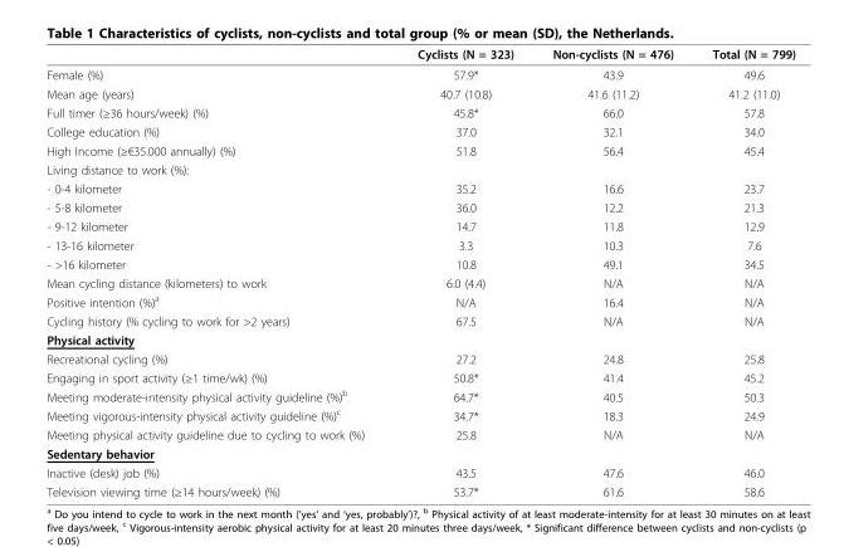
<table><thead><tr><td></td><td>Cyclists (N = 323)</td><td>Non-cyclists (N = 476)</td><td>Total (N = 799)</td></tr></thead><tbody><tr><td>Female (%)</td><td>57.9*</td><td>43.9</td><td>49.6</td></tr><tr><td>Mean age (years)</td><td>40.7 (10.8)</td><td>41.6 (11.2)</td><td>41.2 (11.0)</td></tr><tr><td>Full timer (≥36 hours/week) (%)</td><td>45.8*</td><td>66.0</td><td>57.8</td></tr><tr><td>College education (%)</td><td>37.0</td><td>32.1</td><td>34.0</td></tr><tr><td>High Income (≥€35.000 annually) (%)</td><td>51.8</td><td>56.4</td><td>45.4</td></tr><tr><td colspan="4">Living distance to work (%):</td></tr><tr><td>- 0-4 kilometer</td><td>35.2</td><td>16.6</td><td>23.7</td></tr><tr><td>- 5-8 kilometer</td><td>36.0</td><td>12.2</td><td>21.3</td></tr><tr><td>- 9-12 kilometer</td><td>14.7</td><td>11.8</td><td>12.9</td></tr><tr><td>- 13-16 kilometer</td><td>3.3</td><td>10.3</td><td>7.6</td></tr><tr><td>- &gt;16 kilometer</td><td>10.8</td><td>49.1</td><td>34.5</td></tr><tr><td>Mean cycling distance (kilometers) to work</td><td>6.0 (4.4)</td><td>N/A</td><td>N/A</td></tr><tr><td>Positive intention (%)<sup>a</sup></td><td>N/A</td><td>16.4</td><td>N/A</td></tr><tr><td>Cycling history (% cycling to work for &gt;2 years)</td><td>67.5</td><td>N/A</td><td>N/A</td></tr><tr><td colspan="4">Physical activity</td></tr><tr><td>Recreational cycling (%)</td><td>27.2</td><td>24.8</td><td>25.8</td></tr><tr><td>Engaging in sport activity (≥1 time/wk) (%)</td><td>50.8*</td><td>41.4</td><td>45.2</td></tr><tr><td>Meeting moderate-intensity physical activity guideline (%)<sup>b</sup></td><td>64.7*</td><td>40.5</td><td>50.3</td></tr><tr><td>Meeting vigorous-intensity physical activity guideline (%)<sup>c</sup></td><td>34.7*</td><td>18.3</td><td>24.9</td></tr><tr><td>Meeting physical activity guideline due to cycling to work (%)</td><td>25.8</td><td>N/A</td><td>N/A</td></tr><tr><td colspan="4">Sedentary behavior</td></tr><tr><td>Inactive (desk) job (%)</td><td>43.5</td><td>47.6</td><td>46.0</td></tr><tr><td>Television viewing time (≥14 hours/week) (%)</td><td>53.7*</td><td>61.6</td><td>58.6</td></tr></tbody></table>